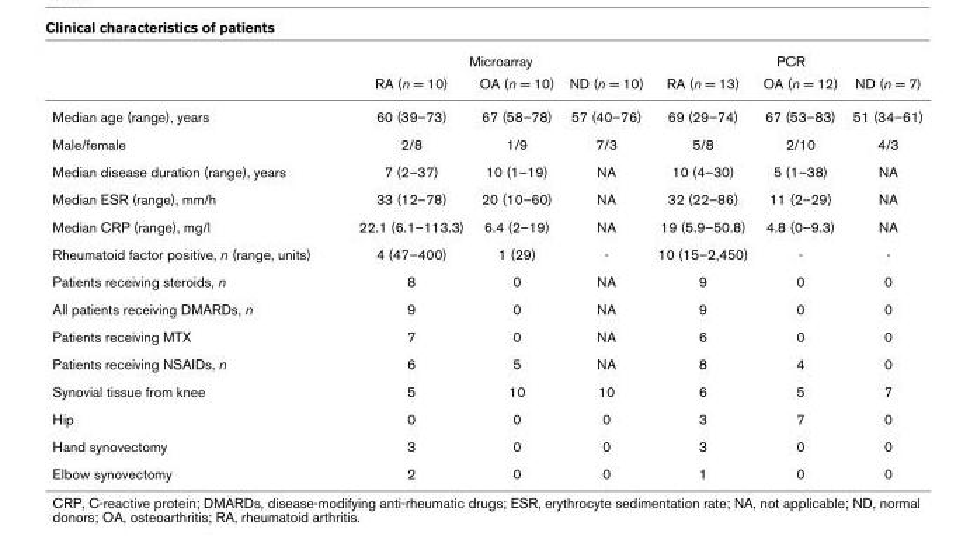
<table><thead><tr><td rowspan="2"></td><td colspan="3">Microarray</td><td colspan="3">PCR</td></tr><tr><td>RA (n = 10)</td><td>OA (n = 10)</td><td>ND (n = 10)</td><td>RA (n = 13)</td><td>OA (n = 12)</td><td>ND (n = 7)</td></tr></thead><tbody><tr><td>Median age (range), years</td><td>60 (39–73)</td><td>67 (58–78)</td><td>57 (40–76)</td><td>69 (29–74)</td><td>67 (53–83)</td><td>51 (34–61)</td></tr><tr><td>Male/female</td><td>2/8</td><td>1/9</td><td>7/3</td><td>5/8</td><td>2/10</td><td>4/3</td></tr><tr><td>Median disease duration (range), years</td><td>7 (2–37)</td><td>10 (1–19)</td><td>NA</td><td>10 (4–30)</td><td>5 (1–38)</td><td>NA</td></tr><tr><td>Median ESR (range), mm/h</td><td>33 (12–78)</td><td>20 (10–60)</td><td>NA</td><td>32 (22–86)</td><td>11 (2–29)</td><td>NA</td></tr><tr><td>Median CRP (range), mg/l</td><td>22.1 (6.1–113.3)</td><td>6.4 (2–19)</td><td>NA</td><td>19 (5.9–50.8)</td><td>4.8 (0–9.3)</td><td>NA</td></tr><tr><td>Rheumatoid factor positive, n (range, units)</td><td>4 (47–400)</td><td>1 (29)</td><td>-</td><td>10 (15–2,450)</td><td>-</td><td>-</td></tr><tr><td>Patients receiving steroids, n</td><td>8</td><td>0</td><td>NA</td><td>9</td><td>0</td><td>0</td></tr><tr><td>All patients receiving DMARDs, n</td><td>9</td><td>0</td><td>NA</td><td>9</td><td>0</td><td>0</td></tr><tr><td>Patients receiving MTX</td><td>7</td><td>0</td><td>NA</td><td>6</td><td>0</td><td>0</td></tr><tr><td>Patients receiving NSAIDs, n</td><td>6</td><td>5</td><td>NA</td><td>8</td><td>4</td><td>0</td></tr><tr><td>Synovial tissue from knee</td><td>5</td><td>10</td><td>10</td><td>6</td><td>5</td><td>7</td></tr><tr><td>Hip</td><td>0</td><td>0</td><td>0</td><td>3</td><td>7</td><td>0</td></tr><tr><td>Hand synovectomy</td><td>3</td><td>0</td><td>0</td><td>3</td><td>0</td><td>0</td></tr><tr><td>Elbow synovectomy</td><td>2</td><td>0</td><td>0</td><td>1</td><td>0</td><td>0</td></tr></tbody></table>